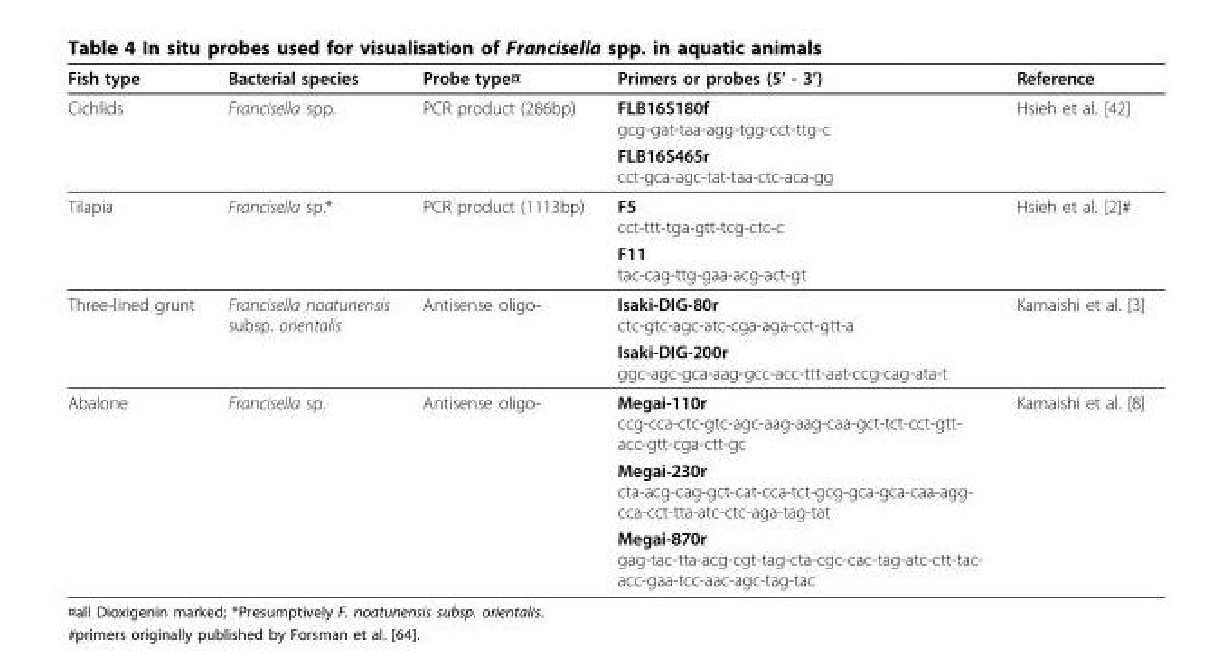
<table><thead><tr><td>Fish type</td><td>Bacterial species</td><td>Probe type¤</td><td>Primers or probes (5’ - 3’)</td><td>Reference</td></tr></thead><tbody><tr><td rowspan="2">Cichlids</td><td>Francisella spp.</td><td>PCR product (286bp)</td><td>FLB16S180f gcg-gat-taa-agg-tgg-cct-ttg-c</td><td>Hsieh et al. [42]</td></tr><tr><td></td><td></td><td>FLB16S465r cct-gca-agc-tat-taa-ctc-aca-gg</td><td></td></tr><tr><td rowspan="2">Tilapia</td><td>Francisella sp.*</td><td>PCR product (1113bp)</td><td>F5 cct-ttt-tga-gtt-tcg-ctc-c</td><td>Hsieh et al. [2]#</td></tr><tr><td></td><td></td><td>F11 tac-cag-ttg-gaa-acg-act-gt</td><td></td></tr><tr><td rowspan="2">Three-lined grunt</td><td>Francisella noatunensis subsp. orientalis</td><td>Antisense oligo-</td><td>Isaki-DIG-80r ctc-gtc-agc-atc-cga-aga-cct-gtt-a</td><td>Kamaishi et al. [3]</td></tr><tr><td></td><td></td><td>Isaki-DIG-200r ggc-agc-gca-aag-gcc-acc-ttt-aat-ccg-cag-ata-t</td><td></td></tr><tr><td rowspan="3">Abalone</td><td>Francisella sp.</td><td>Antisense oligo-</td><td>Megai-110r ccg-cca-ctc-gtc-agc-aag-aag-caa-gct-tct-cct-gtt- acc-gtt-cga-ctt-gc</td><td>Kamaishi et al. [8]</td></tr><tr><td></td><td></td><td>Megai-230r cta-acg-cag-gct-cat-cca-tct-gcg-gca-gca-caa-agg- cca-cct-tta-atc-ctc-aga-tag-tat</td><td></td></tr><tr><td></td><td></td><td>Megai-870r gag-tac-tta-acg-cgt-tag-cta-cgc-cac-tag-atc-ctt-tac- acc-gaa-tcc-aac-agc-tag-tac</td><td></td></tr></tbody></table>